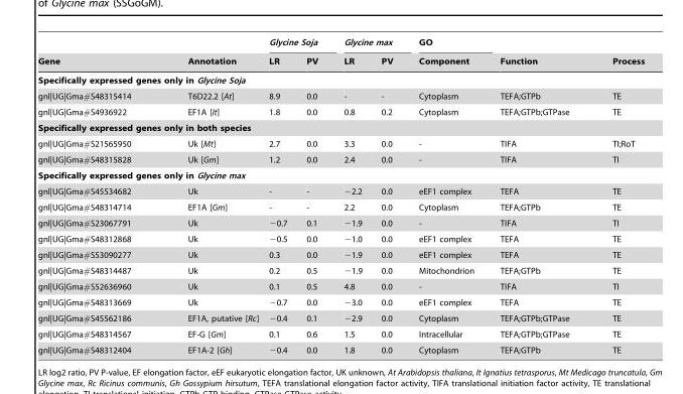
<table><thead><tr><td rowspan="2">Gene</td><td rowspan="2">Annotation</td><td colspan="2">Glycine Soja</td><td colspan="2">Glycine max</td><td rowspan="2">GO Component</td><td rowspan="2">Function</td><td rowspan="2">Process</td></tr><tr><td>LR</td><td>PV</td><td>LR</td><td>PV</td></tr></thead><tbody><tr><td colspan="9">Specifically expressed genes only in Glycine Soja</td></tr><tr><td>gnl|UG|Gma#S48315414</td><td>T6D22.2 [At]</td><td>8.9</td><td>0.0</td><td>-</td><td>-</td><td>Cytoplasm</td><td>TEFA;GTPb</td><td>TE</td></tr><tr><td>gnl|UG|Gma#S4936922</td><td>EF1A [It]</td><td>1.8</td><td>0.0</td><td>0.8</td><td>0.2</td><td>Cytoplasm</td><td>TEFA;GTPb;GTPase</td><td>TE</td></tr><tr><td colspan="9">Specifically expressed genes only in both species</td></tr><tr><td>gnl|UG|Gma#S21565950</td><td>Uk [Mt]</td><td>2.7</td><td>0.0</td><td>3.3</td><td>0.0</td><td>-</td><td>TIFA</td><td>TI;RoT</td></tr><tr><td>gnl|UG|Gma#S48315828</td><td>Uk [Gm]</td><td>1.2</td><td>0.0</td><td>2.4</td><td>0.0</td><td>-</td><td>TIFA</td><td>TI</td></tr><tr><td colspan="9">Specifically expressed genes only in Glycine max</td></tr><tr><td>gnl|UG|Gma#S45534682</td><td>Uk</td><td>-</td><td>-</td><td>−2.2</td><td>0.0</td><td>eEF1 complex</td><td>TEFA</td><td>TE</td></tr><tr><td>gnl|UG|Gma#S48314714</td><td>EF1A [Gm]</td><td>-</td><td>-</td><td>2.2</td><td>0.0</td><td>Cytoplasm</td><td>TEFA;GTPb</td><td>TE</td></tr><tr><td>gnl|UG|Gma#S23067791</td><td>Uk</td><td>−0.7</td><td>0.1</td><td>−1.9</td><td>0.0</td><td>-</td><td>TIFA</td><td>TI</td></tr><tr><td>gnl|UG|Gma#S48312868</td><td>Uk</td><td>−0.5</td><td>0.0</td><td>−1.0</td><td>0.0</td><td>eEF1 complex</td><td>TEFA</td><td>TE</td></tr><tr><td>gnl|UG|Gma#S53090277</td><td>Uk</td><td>0.3</td><td>0.0</td><td>−1.9</td><td>0.0</td><td>eEF1 complex</td><td>TEFA</td><td>TE</td></tr><tr><td>gnl|UG|Gma#S48314487</td><td>Uk</td><td>0.2</td><td>0.5</td><td>−1.9</td><td>0.0</td><td>Mitochondrion</td><td>TEFA;GTPb</td><td>TE</td></tr><tr><td>gnl|UG|Gma#S52636960</td><td>Uk</td><td>0.1</td><td>0.5</td><td>4.8</td><td>0.0</td><td>-</td><td>TIFA</td><td>TI</td></tr><tr><td>gnl|UG|Gma#S48313669</td><td>Uk</td><td>−0.7</td><td>0.0</td><td>−3.0</td><td>0.0</td><td>eEF1 complex</td><td>TEFA</td><td>TE</td></tr><tr><td>gnl|UG|Gma#S45562186</td><td>EF1A, putative [Rc]</td><td>−0.4</td><td>0.1</td><td>−2.9</td><td>0.0</td><td>Cytoplasm</td><td>TEFA;GTPb;GTPase</td><td>TE</td></tr><tr><td>gnl|UG|Gma#S48314567</td><td>EF-G [Gm]</td><td>0.1</td><td>0.6</td><td>1.5</td><td>0.0</td><td>Intracellular</td><td>TEFA;GTPb;GTPase</td><td>TE</td></tr><tr><td>gnl|UG|Gma#S48312404</td><td>EF1A-2 [Gh]</td><td>−0.4</td><td>0.0</td><td>1.8</td><td>0.0</td><td>Cytoplasm</td><td>TEFA;GTPb</td><td>TE</td></tr></tbody></table>